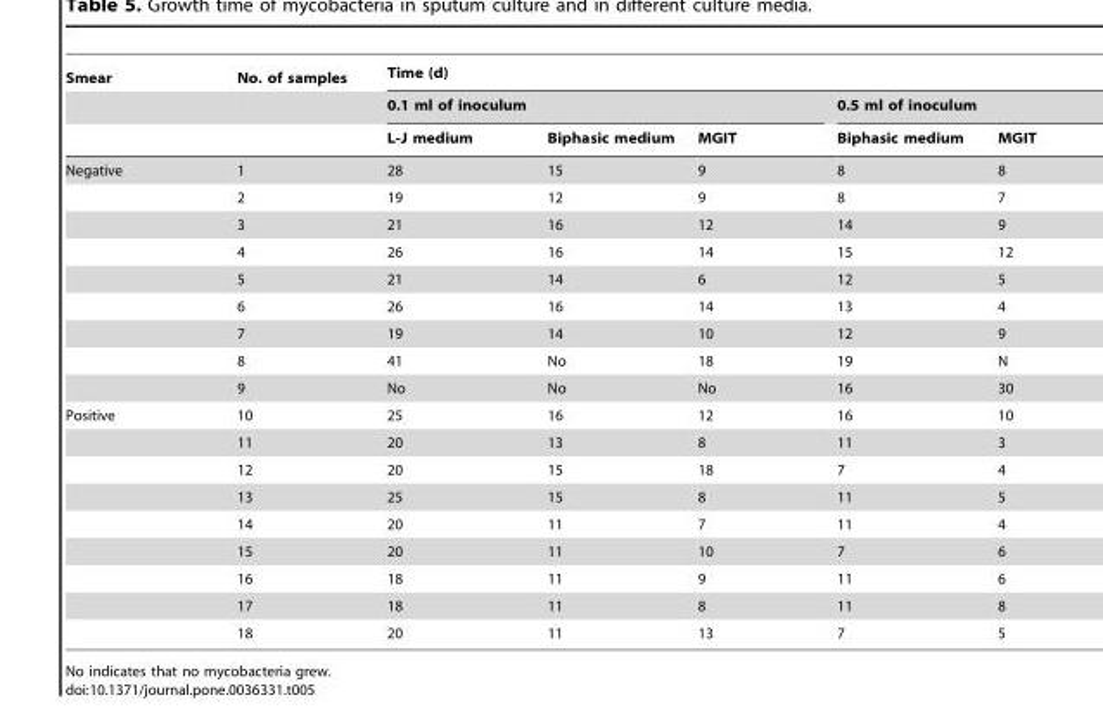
<table><thead><tr><td rowspan="3">Smear</td><td rowspan="3">No. of samples</td><td colspan="5">Time (d)</td></tr><tr><td colspan="3">0.1 ml of inoculum</td><td colspan="2">0.5 ml of inoculum</td></tr><tr><td>L-J medium</td><td>Biphasic medium</td><td>MGIT</td><td>Biphasic medium</td><td>MGIT</td></tr></thead><tbody><tr><td rowspan="9">Negative</td><td>1</td><td>28</td><td>15</td><td>9</td><td>8</td><td>8</td></tr><tr><td>2</td><td>19</td><td>12</td><td>9</td><td>8</td><td>7</td></tr><tr><td>3</td><td>21</td><td>16</td><td>12</td><td>14</td><td>9</td></tr><tr><td>4</td><td>26</td><td>16</td><td>14</td><td>15</td><td>12</td></tr><tr><td>5</td><td>21</td><td>14</td><td>6</td><td>12</td><td>5</td></tr><tr><td>6</td><td>26</td><td>16</td><td>14</td><td>13</td><td>4</td></tr><tr><td>7</td><td>19</td><td>14</td><td>10</td><td>12</td><td>9</td></tr><tr><td>8</td><td>41</td><td>No</td><td>18</td><td>19</td><td>N</td></tr><tr><td>9</td><td>No</td><td>No</td><td>No</td><td>16</td><td>30</td></tr><tr><td rowspan="9">Positive</td><td>10</td><td>25</td><td>16</td><td>12</td><td>16</td><td>10</td></tr><tr><td>11</td><td>20</td><td>13</td><td>8</td><td>11</td><td>3</td></tr><tr><td>12</td><td>20</td><td>15</td><td>18</td><td>7</td><td>4</td></tr><tr><td>13</td><td>25</td><td>15</td><td>8</td><td>11</td><td>5</td></tr><tr><td>14</td><td>20</td><td>11</td><td>7</td><td>11</td><td>4</td></tr><tr><td>15</td><td>20</td><td>11</td><td>10</td><td>7</td><td>6</td></tr><tr><td>16</td><td>18</td><td>11</td><td>9</td><td>11</td><td>6</td></tr><tr><td>17</td><td>18</td><td>11</td><td>8</td><td>11</td><td>8</td></tr><tr><td>18</td><td>20</td><td>11</td><td>13</td><td>7</td><td>5</td></tr></tbody></table>